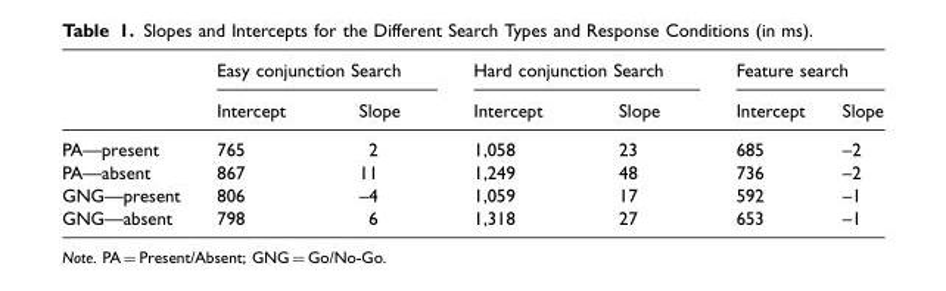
<table><thead><tr><td rowspan="2"></td><td colspan="2">Easy conjunction Search</td><td colspan="2">Hard conjunction Search</td><td colspan="2">Feature search</td></tr><tr><td>Intercept</td><td>Slope</td><td>Intercept</td><td>Slope</td><td>Intercept</td><td>Slope</td></tr></thead><tbody><tr><td>PA—present</td><td>765</td><td>2</td><td>1,058</td><td>23</td><td>685</td><td>–2</td></tr><tr><td>PA—absent</td><td>867</td><td>11</td><td>1,249</td><td>48</td><td>736</td><td>–2</td></tr><tr><td>GNG—present</td><td>806</td><td>–4</td><td>1,059</td><td>17</td><td>592</td><td>–1</td></tr><tr><td>GNG—absent</td><td>798</td><td>6</td><td>1,318</td><td>27</td><td>653</td><td>–1</td></tr></tbody></table>